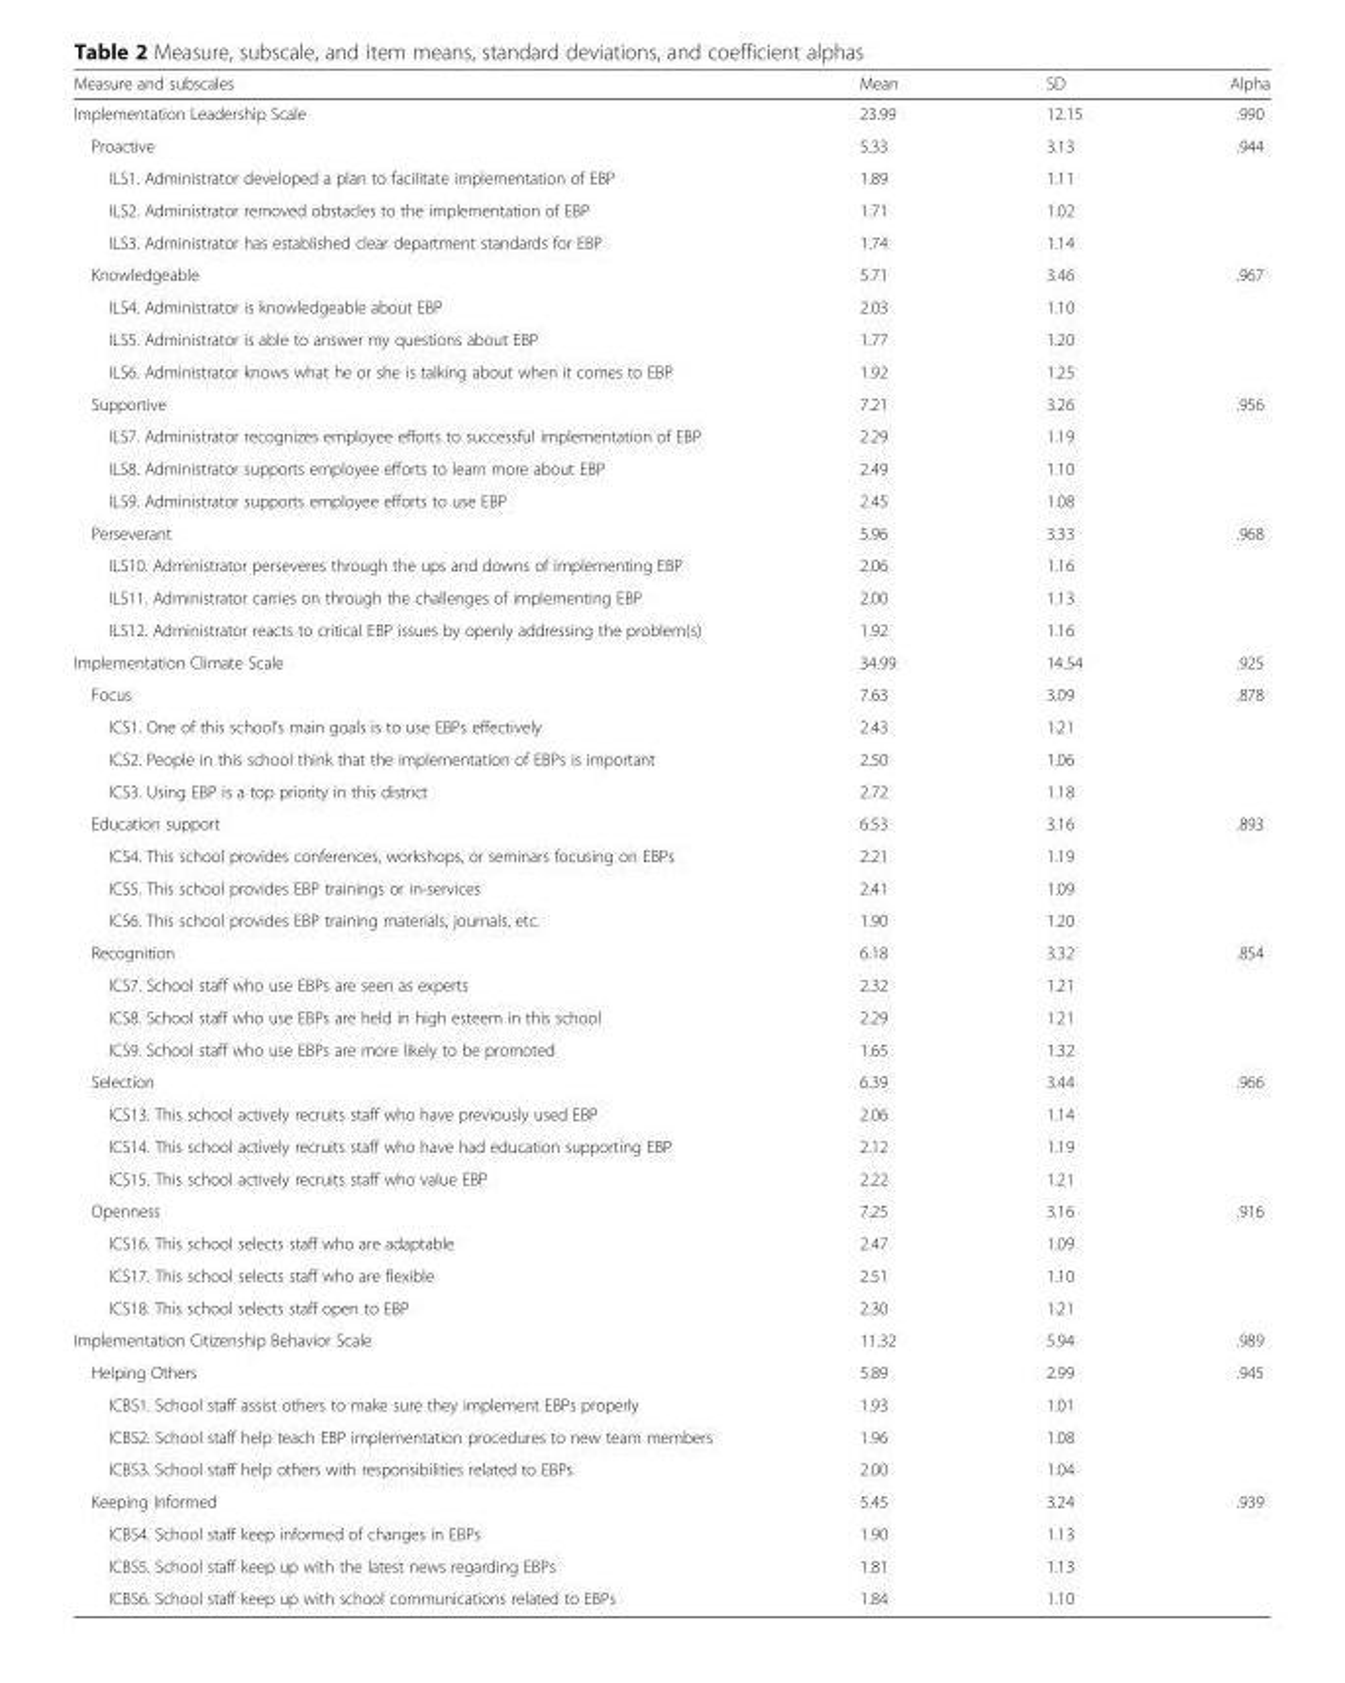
<table><thead><tr><td>Measure and subscales</td><td>Mean</td><td>SD</td><td>Alpha</td></tr></thead><tbody><tr><td>Implementation Leadership Scale</td><td>23.99</td><td>12.15</td><td>.990</td></tr><tr><td>Proactive</td><td>5.33</td><td>3.13</td><td>.944</td></tr><tr><td>ILS1. Administrator developed a plan to facilitate implementation of EBP</td><td>1.89</td><td>1.11</td><td></td></tr><tr><td>ILS2. Administrator removed obstacles to the implementation of EBP</td><td>1.71</td><td>1.02</td><td></td></tr><tr><td>ILS3. Administrator has established clear department standards for EBP</td><td>1.74</td><td>1.14</td><td></td></tr><tr><td>Knowledgeable</td><td>5.71</td><td>3.46</td><td>.967</td></tr><tr><td>ILS4. Administrator is knowledgeable about EBP</td><td>2.03</td><td>1.10</td><td></td></tr><tr><td>ILS5. Administrator is able to answer my questions about EBP</td><td>1.77</td><td>1.20</td><td></td></tr><tr><td>ILS6. Administrator knows what he or she is talking about when it comes to EBP</td><td>1.92</td><td>1.25</td><td></td></tr><tr><td>Supportive</td><td>7.21</td><td>3.26</td><td>.956</td></tr><tr><td>ILS7. Administrator recognizes employee efforts to successful implementation of EBP</td><td>2.29</td><td>1.19</td><td></td></tr><tr><td>ILS8. Administrator supports employee efforts to learn more about EBP</td><td>2.49</td><td>1.10</td><td></td></tr><tr><td>ILS9. Administrator supports employee efforts to use EBP</td><td>2.45</td><td>1.08</td><td></td></tr><tr><td>Perseverant</td><td>5.96</td><td>3.33</td><td>.968</td></tr><tr><td>ILS10. Administrator perseveres through the ups and downs of implementing EBP</td><td>2.06</td><td>1.16</td><td></td></tr><tr><td>ILS11. Administrator carries on through the challenges of implementing EBP</td><td>2.00</td><td>1.13</td><td></td></tr><tr><td>ILS12. Administrator reacts to critical EBP issues by openly addressing the problem(s)</td><td>1.92</td><td>1.16</td><td></td></tr><tr><td>Implementation Climate Scale</td><td>34.99</td><td>14.54</td><td>.925</td></tr><tr><td>Focus</td><td>7.63</td><td>3.09</td><td>.878</td></tr><tr><td>ICS1. One of this school’s main goals is to use EBPs effectively</td><td>2.43</td><td>1.21</td><td></td></tr><tr><td>ICS2. People in this school think that the implementation of EBPs is important</td><td>2.50</td><td>1.06</td><td></td></tr><tr><td>ICS3. Using EBP is a top priority in this district</td><td>2.72</td><td>1.18</td><td></td></tr><tr><td>Education support</td><td>6.53</td><td>3.16</td><td>.893</td></tr><tr><td>ICS4. This school provides conferences, workshops, or seminars focusing on EBPs</td><td>2.21</td><td>1.19</td><td></td></tr><tr><td>ICS5. This school provides EBP trainings or in-services</td><td>2.41</td><td>1.09</td><td></td></tr><tr><td>ICS6. This school provides EBP training materials, journals, etc.</td><td>1.90</td><td>1.20</td><td></td></tr><tr><td>Recognition</td><td>6.18</td><td>3.32</td><td>.854</td></tr><tr><td>ICS7. School staff who use EBPs are seen as experts</td><td>2.32</td><td>1.21</td><td></td></tr><tr><td>ICS8. School staff who use EBPs are held in high esteem in this school</td><td>2.29</td><td>1.21</td><td></td></tr><tr><td>ICS9. School staff who use EBPs are more likely to be promoted</td><td>1.65</td><td>1.32</td><td></td></tr><tr><td>Selection</td><td>6.39</td><td>3.44</td><td>.966</td></tr><tr><td>ICS13. This school actively recruits staff who have previously used EBP</td><td>2.06</td><td>1.14</td><td></td></tr><tr><td>ICS14. This school actively recruits staff who have had education supporting EBP</td><td>2.12</td><td>1.19</td><td></td></tr><tr><td>ICS15. This school actively recruits staff who value EBP</td><td>2.22</td><td>1.21</td><td></td></tr><tr><td>Openness</td><td>7.25</td><td>3.16</td><td>.916</td></tr><tr><td>ICS16. This school selects staff who are adaptable</td><td>2.47</td><td>1.09</td><td></td></tr><tr><td>ICS17. This school selects staff who are flexible</td><td>2.51</td><td>1.10</td><td></td></tr><tr><td>ICS18. This school selects staff open to EBP</td><td>2.30</td><td>1.21</td><td></td></tr><tr><td>Implementation Citizenship Behavior Scale</td><td>11.32</td><td>5.94</td><td>.989</td></tr><tr><td>Helping Others</td><td>5.89</td><td>2.99</td><td>.945</td></tr><tr><td>ICBS1. School staff assist others to make sure they implement EBPs properly</td><td>1.93</td><td>1.01</td><td></td></tr><tr><td>ICBS2. School staff help teach EBP implementation procedures to new team members</td><td>1.96</td><td>1.08</td><td></td></tr><tr><td>ICBS3. School staff help others with responsibilities related to EBPs</td><td>2.00</td><td>1.04</td><td></td></tr><tr><td>Keeping Informed</td><td>5.45</td><td>3.24</td><td>.939</td></tr><tr><td>ICBS4. School staff keep informed of changes in EBPs</td><td>1.90</td><td>1.13</td><td></td></tr><tr><td>ICBS5. School staff keep up with the latest news regarding EBPs</td><td>1.81</td><td>1.13</td><td></td></tr><tr><td>ICBS6. School staff keep up with school communications related to EBPs</td><td>1.84</td><td>1.10</td><td></td></tr></tbody></table>